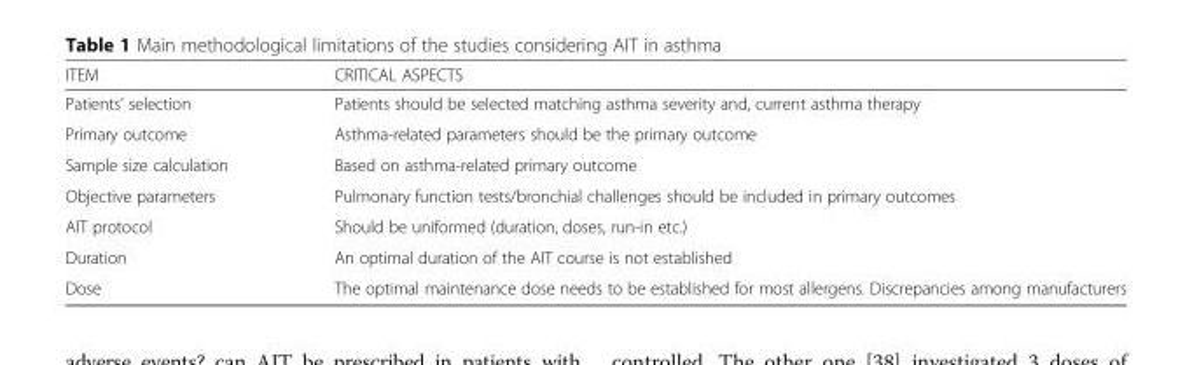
<table><thead><tr><td>ITEM</td><td>CRITICAL ASPECTS</td></tr></thead><tbody><tr><td>Patients’ selection</td><td>Patients should be selected matching asthma severity and, current asthma therapy</td></tr><tr><td>Primary outcome</td><td>Asthma-related parameters should be the primary outcome</td></tr><tr><td>Sample size calculation</td><td>Based on asthma-related primary outcome</td></tr><tr><td>Objective parameters</td><td>Pulmonary function tests/bronchial challenges should be included in primary outcomes</td></tr><tr><td>AIT protocol</td><td>Should be uniformed (duration, doses, run-in etc.)</td></tr><tr><td>Duration</td><td>An optimal duration of the AIT course is not established</td></tr><tr><td>Dose</td><td>The optimal maintenance dose needs to be established for most allergens. Discrepancies among manufacturers</td></tr></tbody></table>